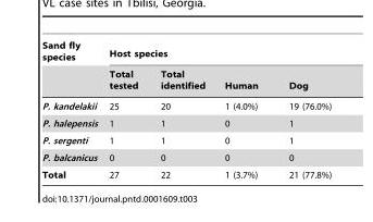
<table><thead><tr><td rowspan="2">Sand fly species</td><td colspan="4">Host species</td></tr><tr><td>Total tested</td><td>Total identified</td><td>Human</td><td>Dog</td></tr></thead><tbody><tr><td>P. kandelakii</td><td>25</td><td>20</td><td>1 (4.0%)</td><td>19 (76.0%)</td></tr><tr><td>P. halepensis</td><td>1</td><td>1</td><td>0</td><td>1</td></tr><tr><td>P. sergenti</td><td>1</td><td>1</td><td>0</td><td>1</td></tr><tr><td>P. balcanicus</td><td>0</td><td>0</td><td>0</td><td>0</td></tr><tr><td>Total</td><td>27</td><td>22</td><td>1 (3.7%)</td><td>21 (77.8%)</td></tr></tbody></table>